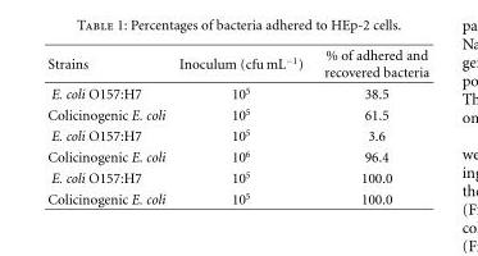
<table><thead><tr><td>Strains</td><td>Inoculum (cfu mL<sup>−1</sup>)</td><td>% of adhered and recovered bacteria</td></tr></thead><tbody><tr><td>E. coli O157:H7</td><td>10<sup>5</sup></td><td>38.5</td></tr><tr><td>Colicinogenic E. coli</td><td>10<sup>5</sup></td><td>61.5</td></tr><tr><td>E. coli O157:H7</td><td>10<sup>5</sup></td><td>3.6</td></tr><tr><td>Colicinogenic E. coli</td><td>10<sup>6</sup></td><td>96.4</td></tr><tr><td>E. coli O157:H7</td><td>10<sup>5</sup></td><td>100.0</td></tr><tr><td>Colicinogenic E. coli</td><td>10<sup>5</sup></td><td>100.0</td></tr></tbody></table>